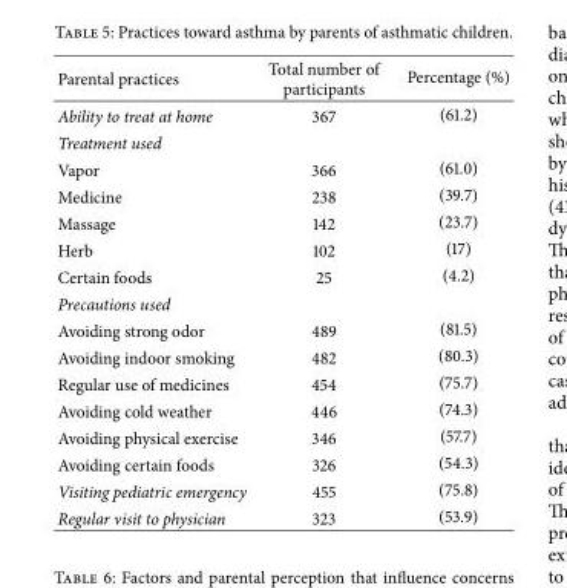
<table><thead><tr><td>Parental practices</td><td>Total number of participants</td><td>Percentage (%)</td></tr></thead><tbody><tr><td>Ability to treat at home</td><td>367</td><td>(61.2)</td></tr><tr><td colspan="3">Treatment used</td></tr><tr><td>Vapor</td><td>366</td><td>(61.0)</td></tr><tr><td>Medicine</td><td>238</td><td>(39.7)</td></tr><tr><td>Massage</td><td>142</td><td>(23.7)</td></tr><tr><td>Herb</td><td>102</td><td>(17)</td></tr><tr><td>Certain foods</td><td>25</td><td>(4.2)</td></tr><tr><td colspan="3">Precautions used</td></tr><tr><td>Avoiding strong odor</td><td>489</td><td>(81.5)</td></tr><tr><td>Avoiding indoor smoking</td><td>482</td><td>(80.3)</td></tr><tr><td>Regular use of medicines</td><td>454</td><td>(75.7)</td></tr><tr><td>Avoiding cold weather</td><td>446</td><td>(74.3)</td></tr><tr><td>Avoiding physical exercise</td><td>346</td><td>(57.7)</td></tr><tr><td>Avoiding certain foods</td><td>326</td><td>(54.3)</td></tr><tr><td>Visiting pediatric emergency</td><td>455</td><td>(75.8)</td></tr><tr><td>Regular visit to physician</td><td>323</td><td>(53.9)</td></tr></tbody></table>